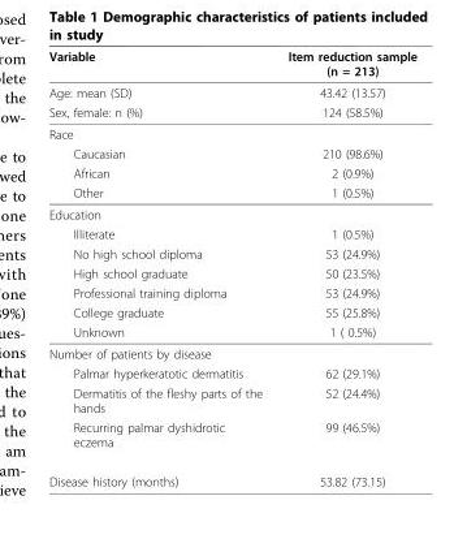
<table><thead><tr><td>Variable</td><td>Item reduction sample (n = 213)</td></tr></thead><tbody><tr><td>Age: mean (SD)</td><td>43.42 (13.57)</td></tr><tr><td>Sex, female: n (%)</td><td>124 (58.5%)</td></tr><tr><td colspan="2">Race</td></tr><tr><td>Caucasian</td><td>210 (98.6%)</td></tr><tr><td>African</td><td>2 (0.9%)</td></tr><tr><td>Other</td><td>1 (0.5%)</td></tr><tr><td colspan="2">Education</td></tr><tr><td>Illiterate</td><td>1 (0.5%)</td></tr><tr><td>No high school diploma</td><td>53 (24.9%)</td></tr><tr><td>High school graduate</td><td>50 (23.5%)</td></tr><tr><td>Professional training diploma</td><td>53 (24.9%)</td></tr><tr><td>College graduate</td><td>55 (25.8%)</td></tr><tr><td>Unknown</td><td>1 ( 0.5%)</td></tr><tr><td colspan="2">Number of patients by disease</td></tr><tr><td>Palmar hyperkeratotic dermatitis</td><td>62 (29.1%)</td></tr><tr><td>Dermatitis of the fleshy parts of the hands</td><td>52 (24.4%)</td></tr><tr><td>Recurring palmar dyshidrotic eczema</td><td>99 (46.5%)</td></tr><tr><td>Disease history (months)</td><td>53.82 (73.15)</td></tr></tbody></table>